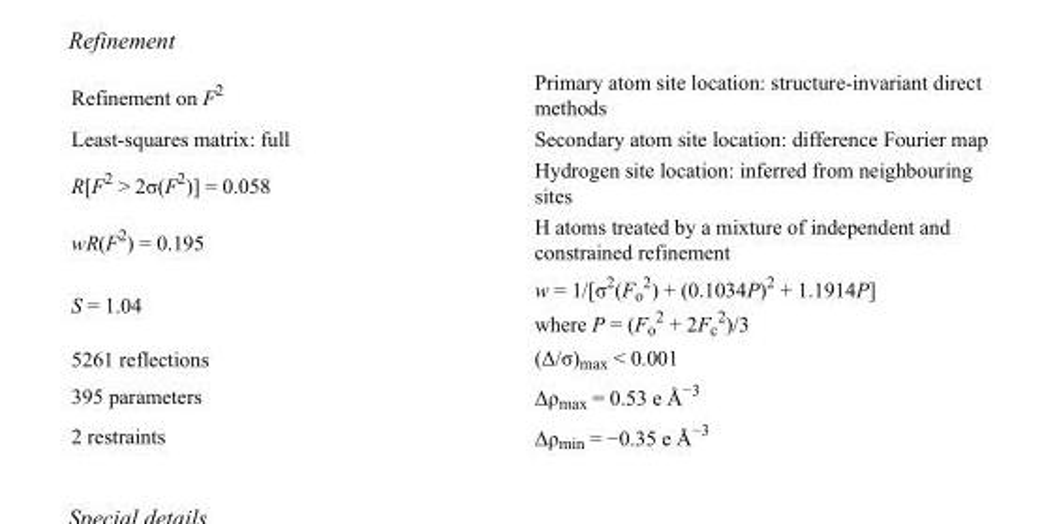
<table><tbody><tr><td>Refinement on F<sup>2</sup></td><td>Primary atom site location: structure-invariant direct methods</td></tr><tr><td>Least-squares matrix: full</td><td>Secondary atom site location: difference Fourier map</td></tr><tr><td>R[F<sup>2</sup> &gt; 2σ(F<sup>2</sup>)] = 0.058</td><td>Hydrogen site location: inferred from neighbouring sites</td></tr><tr><td>wR(F<sup>2</sup>) = 0.195</td><td>H atoms treated by a mixture of independent and constrained refinement</td></tr><tr><td>S = 1.04</td><td>w = 1/[σ<sup>2</sup>(F<sub>o</sub> <sup>2</sup>) + (0.1034P)<sup>2</sup> + 1.1914P] where P = (F<sub>o</sub> <sup>2</sup> + 2F<sub>c</sub> <sup>2</sup>)/3</td></tr><tr><td>5261 reflections</td><td>(Δ/σ)<sub>max</sub> &lt; 0.001</td></tr><tr><td>395 parameters</td><td>Δρ<sub>max</sub> = 0.53 e Å<sup>−3</sup></td></tr><tr><td>2 restraints</td><td>Δρ<sub>min</sub> = −0.35 e Å<sup>−3</sup></td></tr></tbody></table>